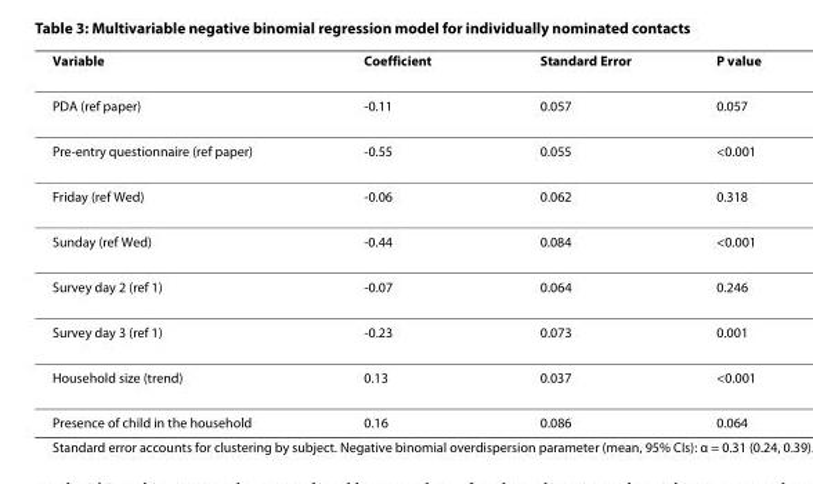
<table><thead><tr><td>Variable</td><td>Coefficient</td><td>Standard Error</td><td>P value</td></tr></thead><tbody><tr><td>PDA (ref paper)</td><td>-0.11</td><td>0.057</td><td>0.057</td></tr><tr><td>Pre-entry questionnaire (ref paper)</td><td>-0.55</td><td>0.055</td><td>&lt;0.001</td></tr><tr><td>Friday (ref Wed)</td><td>-0.06</td><td>0.062</td><td>0.318</td></tr><tr><td>Sunday (ref Wed)</td><td>-0.44</td><td>0.084</td><td>&lt;0.001</td></tr><tr><td>Survey day 2 (ref 1)</td><td>-0.07</td><td>0.064</td><td>0.246</td></tr><tr><td>Survey day 3 (ref 1)</td><td>-0.23</td><td>0.073</td><td>0.001</td></tr><tr><td>Household size (trend)</td><td>0.13</td><td>0.037</td><td>&lt;0.001</td></tr><tr><td>Presence of child in the household</td><td>0.16</td><td>0.086</td><td>0.064</td></tr></tbody></table>